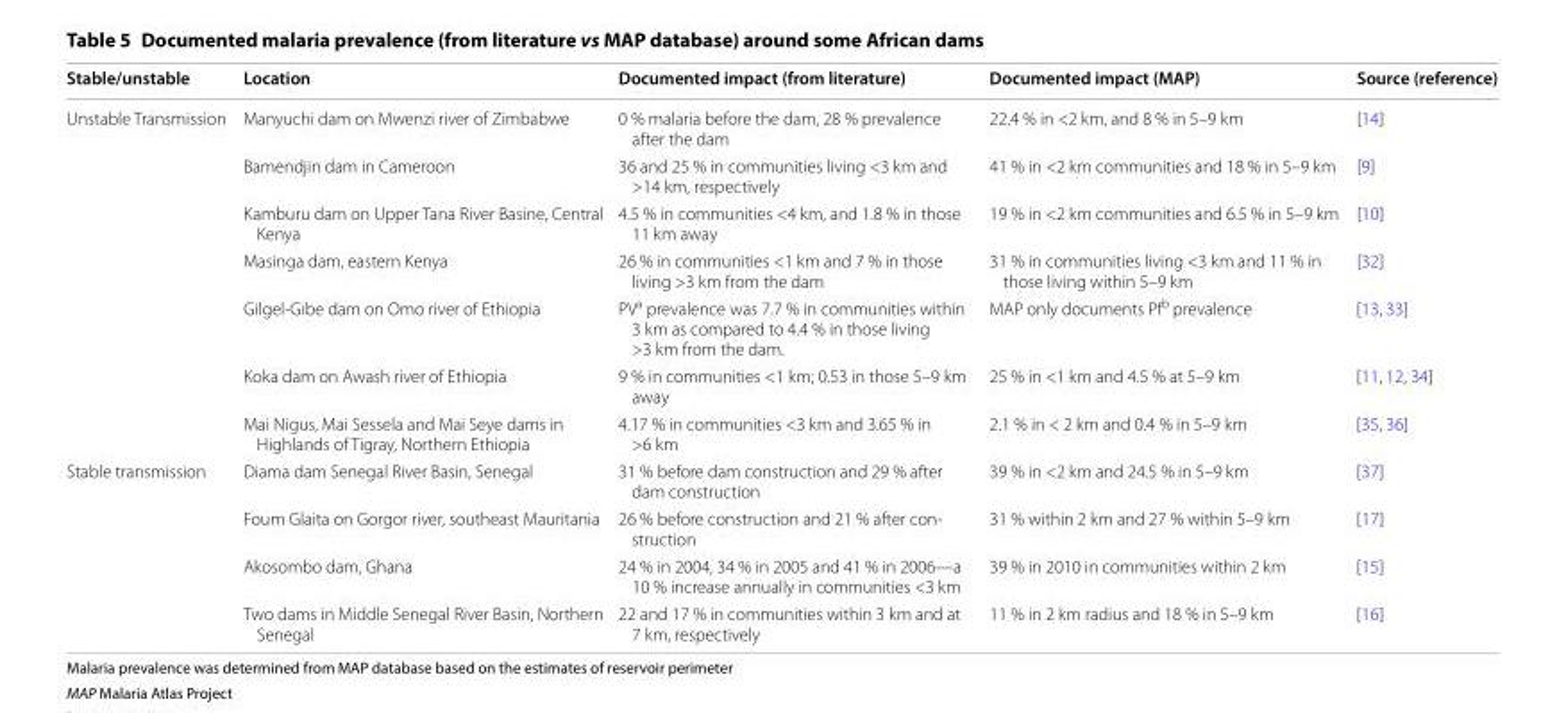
<table><thead><tr><td>Stable/unstable</td><td>Location</td><td>Documented impact (from literature)</td><td>Documented impact (MAP)</td><td>Source (reference)</td></tr></thead><tbody><tr><td rowspan="7">Unstable Transmission</td><td>Manyuchi dam on Mwenzi river of Zimbabwe</td><td>0 % malaria before the dam, 28 % prevalence after the dam</td><td>22.4 % in &lt;2 km, and 8 % in 5–9 km</td><td>[14]</td></tr><tr><td>Bamendjin dam in Cameroon</td><td>36 and 25 % in communities living &lt;3 km and &gt;14 km, respectively</td><td>41 % in &lt;2 km communities and 18 % in 5–9 km</td><td>[9]</td></tr><tr><td>Kamburu dam on Upper Tana River Basine, Central Kenya</td><td>4.5 % in communities &lt;4 km, and 1.8 % in those 11 km away</td><td>19 % in &lt;2 km communities and 6.5 % in 5–9 km</td><td>[10]</td></tr><tr><td>Masinga dam, eastern Kenya</td><td>26 % in communities &lt;1 km and 7 % in those living &gt;3 km from the dam</td><td>31 % in communities living &lt;3 km and 11 % in those living within 5–9 km</td><td>[32]</td></tr><tr><td>Gilgel-Gibe dam on Omo river of Ethiopia</td><td>PV<sup>a</sup> prevalence was 7.7 % in communities within 3 km as compared to 4.4 % in those living &gt;3 km from the dam.</td><td>MAP only documents Pf<sup>b</sup> prevalence</td><td>[13, 33]</td></tr><tr><td>Koka dam on Awash river of Ethiopia</td><td>9 % in communities &lt;1 km; 0.53 in those 5–9 km away</td><td>25 % in &lt;1 km and 4.5 % at 5–9 km</td><td>[11, 12, 34]</td></tr><tr><td>Mai Nigus, Mai Sessela and Mai Seye dams in Highlands of Tigray, Northern Ethiopia</td><td>4.17 % in communities &lt;3 km and 3.65 % in &gt;6 km</td><td>2.1 % in &lt; 2 km and 0.4 % in 5–9 km</td><td>[35, 36]</td></tr><tr><td rowspan="4">Stable transmission</td><td>Diama dam Senegal River Basin, Senegal</td><td>31 % before dam construction and 29 % after dam construction</td><td>39 % in &lt;2 km and 24.5 % in 5–9 km</td><td>[37]</td></tr><tr><td>Foum Glaita on Gorgor river, southeast Mauritania</td><td>26 % before construction and 21 % after con- struction</td><td>31 % within 2 km and 27 % within 5–9 km</td><td>[17]</td></tr><tr><td>Akosombo dam, Ghana</td><td>24 % in 2004, 34 % in 2005 and 41 % in 2006—a 10 % increase annually in communities &lt;3 km</td><td>39 % in 2010 in communities within 2 km</td><td>[15]</td></tr><tr><td>Two dams in Middle Senegal River Basin, Northern Senegal</td><td>22 and 17 % in communities within 3 km and at 7 km, respectively</td><td>11 % in 2 km radius and 18 % in 5–9 km</td><td>[16]</td></tr></tbody></table>